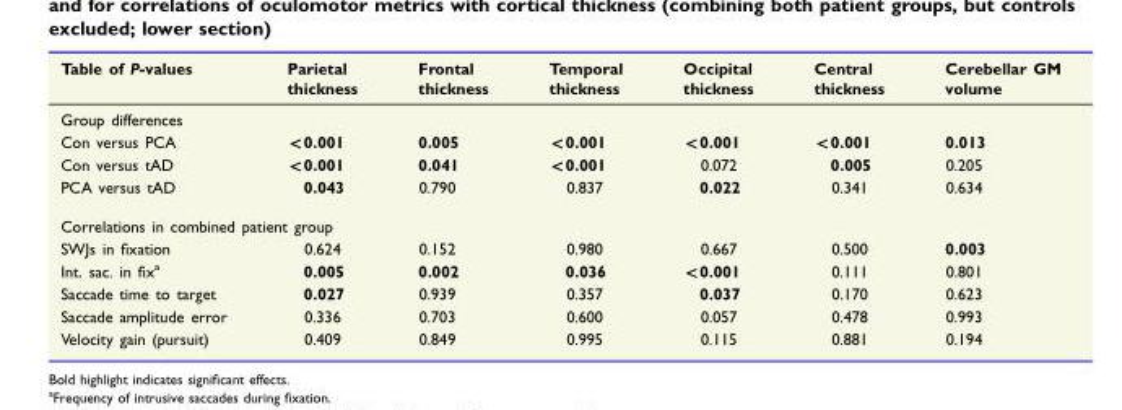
<table><thead><tr><td>Table of P-values</td><td>Parietal thickness</td><td>Frontal thickness</td><td>Temporal thickness</td><td>Occipital thickness</td><td>Central thickness</td><td>Cerebellar GM volume</td></tr></thead><tbody><tr><td colspan="7">Group differences</td></tr><tr><td>Con versus PCA</td><td>&lt;0.001</td><td>0.005</td><td>&lt;0.001</td><td>&lt;0.001</td><td>&lt;0.001</td><td>0.013</td></tr><tr><td>Con versus tAD</td><td>&lt;0.001</td><td>0.041</td><td>&lt;0.001</td><td>0.072</td><td>0.005</td><td>0.205</td></tr><tr><td>PCA versus tAD</td><td>0.043</td><td>0.790</td><td>0.837</td><td>0.022</td><td>0.341</td><td>0.634</td></tr><tr><td colspan="7">Correlations in combined patient group</td></tr><tr><td>SWJs in fixation</td><td>0.624</td><td>0.152</td><td>0.980</td><td>0.667</td><td>0.500</td><td>0.003</td></tr><tr><td>Int. sac. in fix<sup>a</sup></td><td>0.005</td><td>0.002</td><td>0.036</td><td>&lt;0.001</td><td>0.111</td><td>0.801</td></tr><tr><td>Saccade time to target</td><td>0.027</td><td>0.939</td><td>0.357</td><td>0.037</td><td>0.170</td><td>0.623</td></tr><tr><td>Saccade amplitude error</td><td>0.336</td><td>0.703</td><td>0.600</td><td>0.057</td><td>0.478</td><td>0.993</td></tr><tr><td>Velocity gain (pursuit)</td><td>0.409</td><td>0.849</td><td>0.995</td><td>0.115</td><td>0.881</td><td>0.194</td></tr></tbody></table>